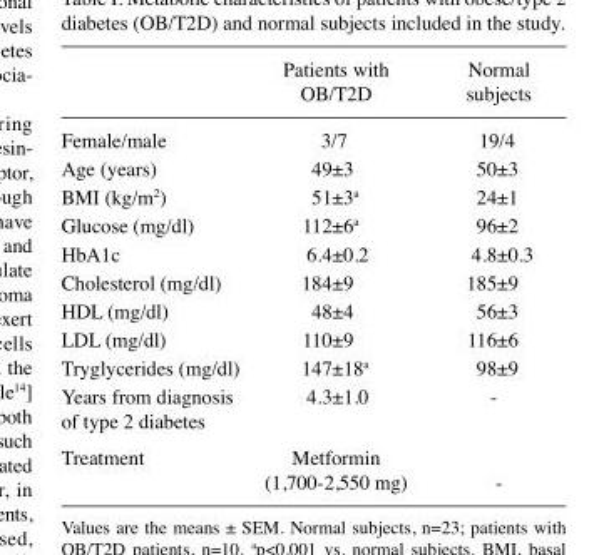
<table><thead><tr><td></td><td>Patients with OB/T2D</td><td>Normal subjects</td></tr></thead><tbody><tr><td>Female/male</td><td>3/7</td><td>19/4</td></tr><tr><td>Age (years)</td><td>49±3</td><td>50±3</td></tr><tr><td>BMI (kg/m<sup>2</sup>)</td><td>51±3<sup>a</sup></td><td>24±1</td></tr><tr><td>Glucose (mg/dl)</td><td>112±6<sup>a</sup></td><td>96±2</td></tr><tr><td>HbA1c</td><td>6.4±0.2</td><td>4.8±0.3</td></tr><tr><td>Cholesterol (mg/dl)</td><td>184±9</td><td>185±9</td></tr><tr><td>HDL (mg/dl)</td><td>48±4</td><td>56±3</td></tr><tr><td>LDL (mg/dl)</td><td>110±9</td><td>116±6</td></tr><tr><td>Tryglycerides (mg/dl)</td><td>147±18<sup>a</sup></td><td>98±9</td></tr><tr><td>Years from diagnosis of type 2 diabetes</td><td>4.3±1.0</td><td>-</td></tr><tr><td>Treatment</td><td>Metformin (1,700-2,550 mg)</td><td>-</td></tr></tbody></table>